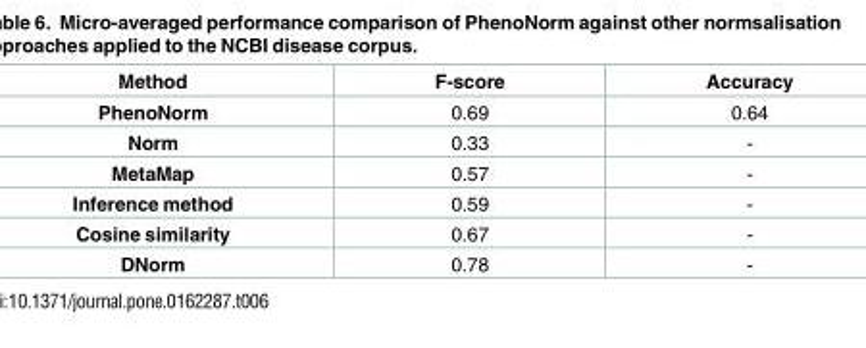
<table><thead><tr><td>Method</td><td>F-score</td><td>Accuracy</td></tr></thead><tbody><tr><td>PhenoNorm</td><td>0.69</td><td>0.64</td></tr><tr><td>Norm</td><td>0.33</td><td>-</td></tr><tr><td>MetaMap</td><td>0.57</td><td>-</td></tr><tr><td>Inference method</td><td>0.59</td><td>-</td></tr><tr><td>Cosine similarity</td><td>0.67</td><td>-</td></tr><tr><td>DNorm</td><td>0.78</td><td>-</td></tr></tbody></table>